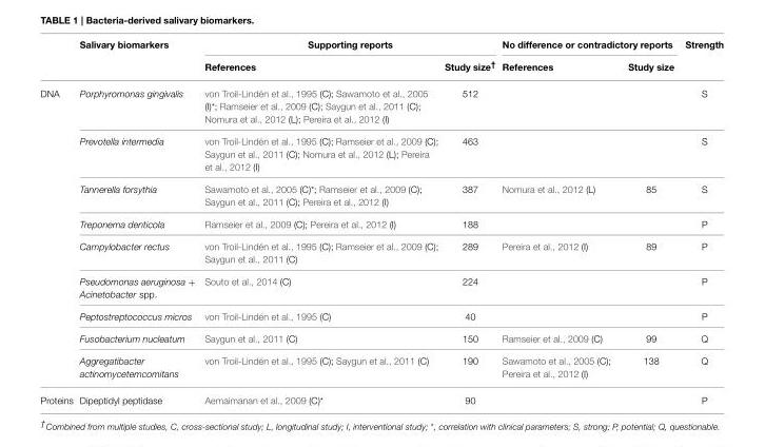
<table><thead><tr><td rowspan="2"></td><td rowspan="2">Salivary biomarkers</td><td colspan="2">Supporting reports</td><td colspan="2">No difference or contradictory reports</td><td rowspan="2">Strength</td></tr><tr><td>References</td><td>Study size<sup>†</sup></td><td>References</td><td>Study size</td></tr></thead><tbody><tr><td rowspan="9">DNA</td><td>Porphyromonas gingivalis</td><td>von Troil-Lindén et al., 1995 (C); Sawamoto et al., 2005 (I)*; Ramseier et al., 2009 (C); Saygun et al., 2011 (C); Nomura et al., 2012 (L); Pereira et al., 2012 (I)</td><td>512</td><td></td><td></td><td>S</td></tr><tr><td>Prevotella intermedia</td><td>von Troil-Lindén et al., 1995 (C); Ramseier et al., 2009 (C); Saygun et al., 2011 (C); Nomura et al., 2012 (L); Pereira et al., 2012 (I)</td><td>463</td><td></td><td></td><td>S</td></tr><tr><td>Tannerella forsythia</td><td>Sawamoto et al., 2005 (C)*; Ramseier et al., 2009 (C); Saygun et al., 2011 (C); Pereira et al., 2012 (I)</td><td>387</td><td>Nomura et al., 2012 (L)</td><td>85</td><td>S</td></tr><tr><td>Treponema denticola</td><td>Ramseier et al., 2009 (C); Pereira et al., 2012 (I)</td><td>188</td><td></td><td></td><td>P</td></tr><tr><td>Campylobacter rectus</td><td>von Troil-Lindén et al., 1995 (C); Ramseier et al., 2009 (C); Saygun et al., 2011 (C)</td><td>289</td><td>Pereira et al., 2012 (I)</td><td>89</td><td>P</td></tr><tr><td>Pseudomonas aeruginosa + Acinetobacter spp.</td><td>Souto et al., 2014 (C)</td><td>224</td><td></td><td></td><td>P</td></tr><tr><td>Peptostreptococcus micros</td><td>von Troil-Lindén et al., 1995 (C)</td><td>40</td><td></td><td></td><td>P</td></tr><tr><td>Fusobacterium nucleatum</td><td>Saygun et al., 2011 (C)</td><td>150</td><td>Ramseier et al., 2009 (C)</td><td>99</td><td>Q</td></tr><tr><td>Aggregatibacter actinomycetemcomitans</td><td>von Troil-Lindén et al., 1995 (C); Saygun et al., 2011 (C)</td><td>190</td><td>Sawamoto et al., 2005 (C); Pereira et al., 2012 (I)</td><td>138</td><td>Q</td></tr><tr><td>Proteins</td><td>Dipeptidyl peptidase</td><td>Aemaimanan et al., 2009 (C)*</td><td>90</td><td></td><td></td><td>P</td></tr></tbody></table>